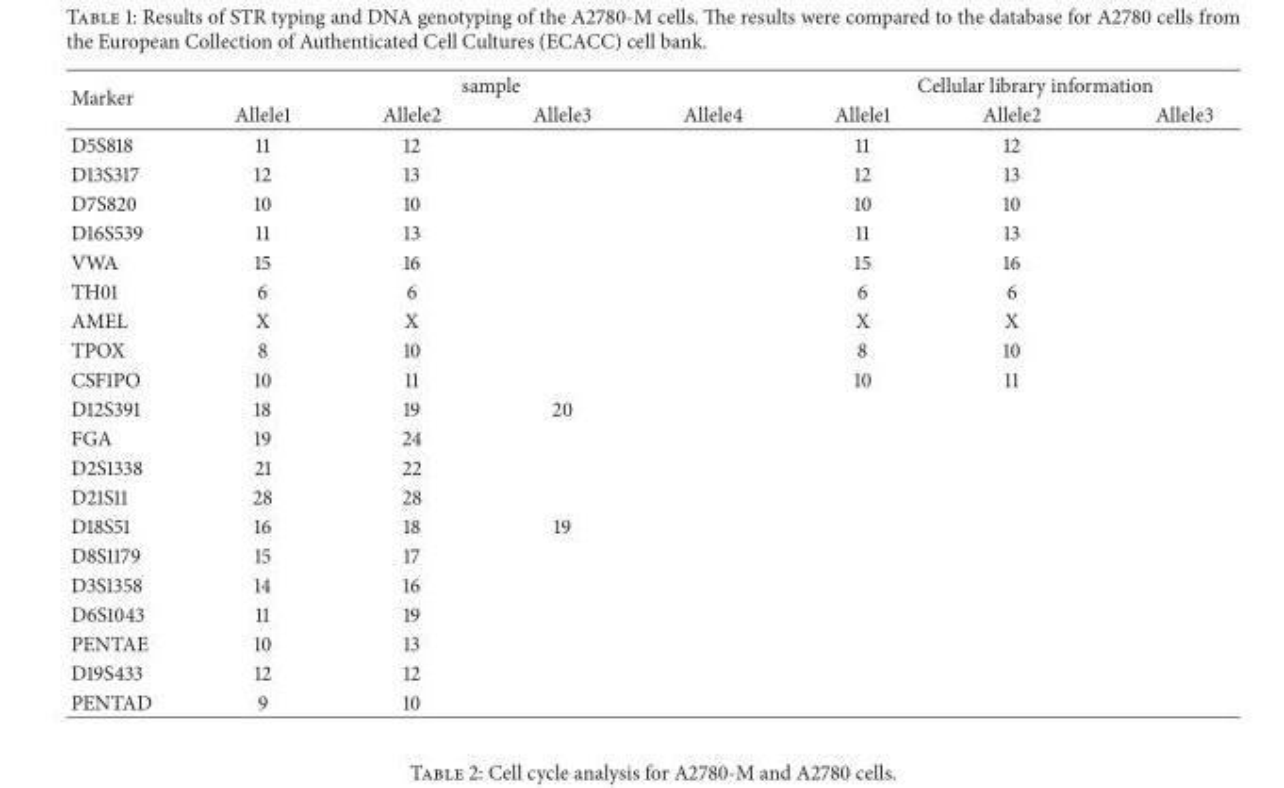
<table><thead><tr><td rowspan="2">Marker</td><td colspan="4">sample</td><td colspan="3">Cellular library information</td></tr><tr><td>Allele1</td><td>Allele2</td><td>Allele3</td><td>Allele4</td><td>Allele1</td><td>Allele2</td><td>Allele3</td></tr></thead><tbody><tr><td>D5S818</td><td>11</td><td>12</td><td></td><td></td><td>11</td><td>12</td><td></td></tr><tr><td>D13S317</td><td>12</td><td>13</td><td></td><td></td><td>12</td><td>13</td><td></td></tr><tr><td>D7S820</td><td>10</td><td>10</td><td></td><td></td><td>10</td><td>10</td><td></td></tr><tr><td>D16S539</td><td>11</td><td>13</td><td></td><td></td><td>11</td><td>13</td><td></td></tr><tr><td>VWA</td><td>15</td><td>16</td><td></td><td></td><td>15</td><td>16</td><td></td></tr><tr><td>TH01</td><td>6</td><td>6</td><td></td><td></td><td>6</td><td>6</td><td></td></tr><tr><td>AMEL</td><td>X</td><td>X</td><td></td><td></td><td>X</td><td>X</td><td></td></tr><tr><td>TPOX</td><td>8</td><td>10</td><td></td><td></td><td>8</td><td>10</td><td></td></tr><tr><td>CSF1PO</td><td>10</td><td>11</td><td></td><td></td><td>10</td><td>11</td><td></td></tr><tr><td>D12S391</td><td>18</td><td>19</td><td>20</td><td></td><td></td><td></td><td></td></tr><tr><td>FGA</td><td>19</td><td>24</td><td></td><td></td><td></td><td></td><td></td></tr><tr><td>D2S1338</td><td>21</td><td>22</td><td></td><td></td><td></td><td></td><td></td></tr><tr><td>D21S11</td><td>28</td><td>28</td><td></td><td></td><td></td><td></td><td></td></tr><tr><td>D18S51</td><td>16</td><td>18</td><td>19</td><td></td><td></td><td></td><td></td></tr><tr><td>D8S1179</td><td>15</td><td>17</td><td></td><td></td><td></td><td></td><td></td></tr><tr><td>D3S1358</td><td>14</td><td>16</td><td></td><td></td><td></td><td></td><td></td></tr><tr><td>D6S1043</td><td>11</td><td>19</td><td></td><td></td><td></td><td></td><td></td></tr><tr><td>PENTAE</td><td>10</td><td>13</td><td></td><td></td><td></td><td></td><td></td></tr><tr><td>D19S433</td><td>12</td><td>12</td><td></td><td></td><td></td><td></td><td></td></tr><tr><td>PENTAD</td><td>9</td><td>10</td><td></td><td></td><td></td><td></td><td></td></tr></tbody></table>